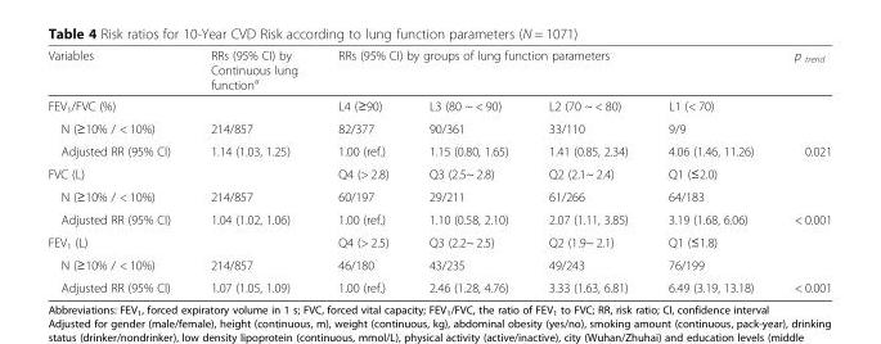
<table><thead><tr><td rowspan="2">Variables FEV<sub>1</sub>/FVC (%)</td><td rowspan="2">RRs (95% CI) by Continuous lung function<sup>a</sup></td><td colspan="4">RRs (95% CI) by groups of lung function parameters</td><td rowspan="2">p <sub>trend</sub></td></tr><tr><td>L4 (≥90)</td><td>L3 (80 ~ &lt; 90)</td><td>L2 (70 ~ &lt; 80)</td><td>L1 (&lt; 70)</td></tr></thead><tbody><tr><td>N (≥10% / &lt; 10%)</td><td>214/857</td><td>82/377</td><td>90/361</td><td>33/110</td><td>9/9</td><td></td></tr><tr><td>Adjusted RR (95% CI)</td><td>1.14 (1.03, 1.25)</td><td>1.00 (ref.)</td><td>1.15 (0.80, 1.65)</td><td>1.41 (0.85, 2.34)</td><td>4.06 (1.46, 11.26)</td><td>0.021</td></tr><tr><td>FVC (L)</td><td></td><td>Q4 (&gt; 2.8)</td><td>Q3 (2.5~ 2.8)</td><td>Q2 (2.1~ 2.4)</td><td>Q1 (≤2.0)</td><td></td></tr><tr><td>N (≥10% / &lt; 10%)</td><td>214/857</td><td>60/197</td><td>29/211</td><td>61/266</td><td>64/183</td><td></td></tr><tr><td>Adjusted RR (95% CI)</td><td>1.04 (1.02, 1.06)</td><td>1.00 (ref.)</td><td>1.10 (0.58, 2.10)</td><td>2.07 (1.11, 3.85)</td><td>3.19 (1.68, 6.06)</td><td>&lt; 0.001</td></tr><tr><td>FEV<sub>1</sub> (L)</td><td></td><td>Q4 (&gt; 2.5)</td><td>Q3 (2.2~ 2.5)</td><td>Q2 (1.9~ 2.1)</td><td>Q1 (≤1.8)</td><td></td></tr><tr><td>N (≥10% / &lt; 10%)</td><td>214/857</td><td>46/180</td><td>43/235</td><td>49/243</td><td>76/199</td><td></td></tr><tr><td>Adjusted RR (95% CI)</td><td>1.07 (1.05, 1.09)</td><td>1.00 (ref.)</td><td>2.46 (1.28, 4.76)</td><td>3.33 (1.63, 6.81)</td><td>6.49 (3.19, 13.18)</td><td>&lt; 0.001</td></tr></tbody></table>